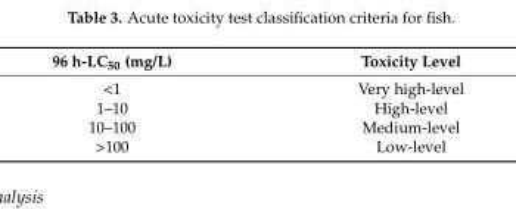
<table><thead><tr><td>96 h-LC<sub>50</sub> (mg/L)</td><td>Toxicity Level</td></tr></thead><tbody><tr><td>&lt;1</td><td>Very high-level</td></tr><tr><td>1–10</td><td>High-level</td></tr><tr><td>10–100</td><td>Medium-level</td></tr><tr><td>&gt;100</td><td>Low-level</td></tr></tbody></table>